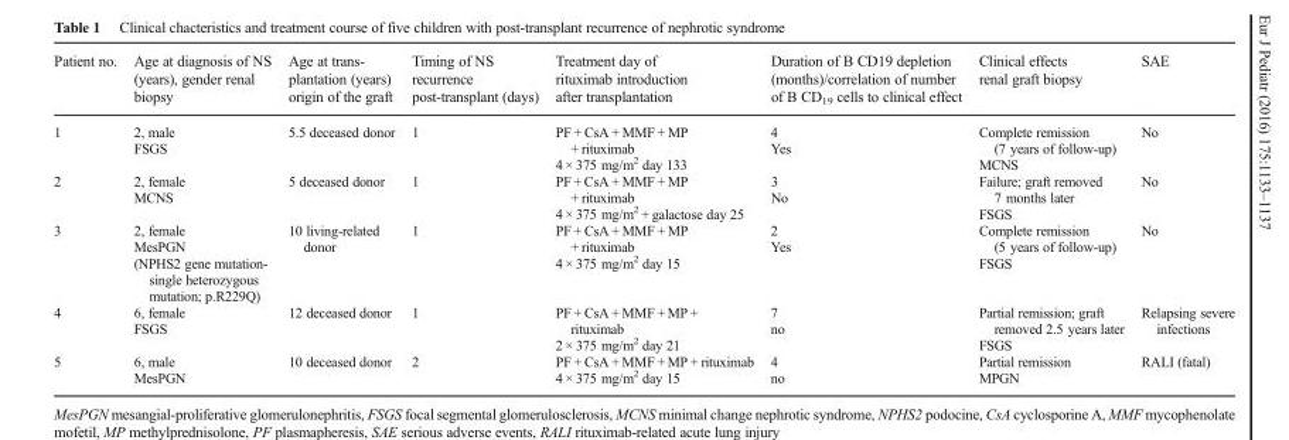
<table><thead><tr><td>Patient no.</td><td>Age at diagnosis of NS (years), gender renal biopsy</td><td>Age at trans- plantation (years) origin of the graft</td><td>Timing of NS recurrence post-transplant (days)</td><td>Treatment day of rituximab introduction after transplantation</td><td>Duration of B CD19 depletion (months)/correlation of number of B CD<sub>19</sub> cells to clinical effect</td><td>Clinical effects renal graft biopsy</td><td>SAE</td></tr></thead><tbody><tr><td>1</td><td>2, male FSGS</td><td>5.5 deceased donor</td><td>1</td><td>PF + CsA + MMF + MP + rituximab 4 × 375 mg/m<sup>2</sup> day 133</td><td>4 Yes</td><td>Complete remission (7 years of follow-up) MCNS</td><td>No</td></tr><tr><td>2</td><td>2, female MCNS</td><td>5 deceased donor</td><td>1</td><td>PF + CsA + MMF + MP + rituximab 4 × 375 mg/m<sup>2</sup> + galactose day 25</td><td>3 No</td><td>Failure; graft removed 7 months later FSGS</td><td>No</td></tr><tr><td>3</td><td>2, female MesPGN (NPHS2 gene mutation- single heterozygous mutation; p.R229Q)</td><td>10 living-related donor</td><td>1</td><td>PF + CsA + MMF + MP + rituximab 4 × 375 mg/m<sup>2</sup> day 15</td><td>2 Yes</td><td>Complete remission (5 years of follow-up) FSGS</td><td>No</td></tr><tr><td>4</td><td>6, female FSGS</td><td>12 deceased donor</td><td>1</td><td>PF + CsA + MMF + MP + rituximab 2 × 375 mg/m<sup>2</sup> day 21</td><td>7 no</td><td>Partial remission; graft removed 2.5 years later FSGS</td><td>Relapsing severe infections</td></tr><tr><td>5</td><td>6, male MesPGN</td><td>10 deceased donor</td><td>2</td><td>PF + CsA + MMF + MP + rituximab 4 × 375 mg/m<sup>2</sup> day 15</td><td>4 no</td><td>Partial remission MPGN</td><td>RALI (fatal)</td></tr></tbody></table>